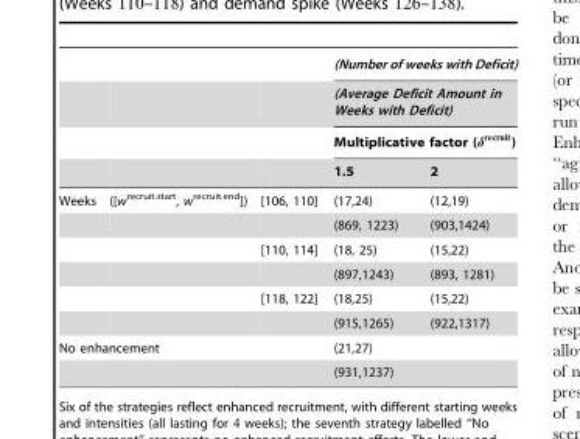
<table><thead><tr><td rowspan="4"></td><td rowspan="4"></td><td rowspan="4"></td><td rowspan="3" colspan="2">(Number of weeks with Deficit) (Average Deficit Amount in Weeks with Deficit) Multiplicative factor (drecruit)</td></tr><tr></tr><tr></tr><tr><td>1.5</td><td>2</td></tr></thead><tbody><tr><td rowspan="6">Weeks</td><td>([w<sup>recruit.start</sup>, w<sup>recruit.end</sup>])</td><td>[106, 110]</td><td>(17,24)</td><td>(12,19)</td></tr><tr><td></td><td></td><td>(869, 1223)</td><td>(903,1424)</td></tr><tr><td></td><td>[110, 114]</td><td>(18, 25)</td><td>(15,22)</td></tr><tr><td></td><td></td><td>(897,1243)</td><td>(893, 1281)</td></tr><tr><td></td><td>[118, 122]</td><td>(18,25)</td><td>(15,22)</td></tr><tr><td></td><td></td><td>(915,1265)</td><td>(922,1317)</td></tr><tr><td rowspan="2" colspan="3">No enhancement</td><td colspan="2">(21,27)</td></tr><tr><td colspan="2">(931,1237)</td></tr></tbody></table>